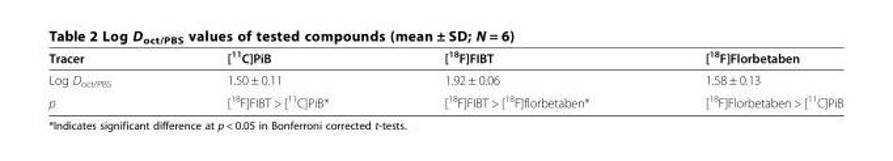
<table><thead><tr><td>Tracer</td><td>[<sup>11</sup>C]PiB</td><td>[<sup>18</sup>F]FIBT</td><td>[<sup>18</sup>F]Florbetaben</td></tr></thead><tbody><tr><td>Log D<sub>oct/PBS</sub></td><td>1.50 ± 0.11</td><td>1.92 ± 0.06</td><td>1.58 ± 0.13</td></tr><tr><td>p</td><td>[<sup>18</sup>F]FIBT &gt; [<sup>11</sup>C]PiB*</td><td>[<sup>18</sup>F]FIBT &gt; [<sup>18</sup>F]florbetaben*</td><td>[<sup>18</sup>F]Florbetaben &gt; [<sup>11</sup>C]PiB</td></tr></tbody></table>